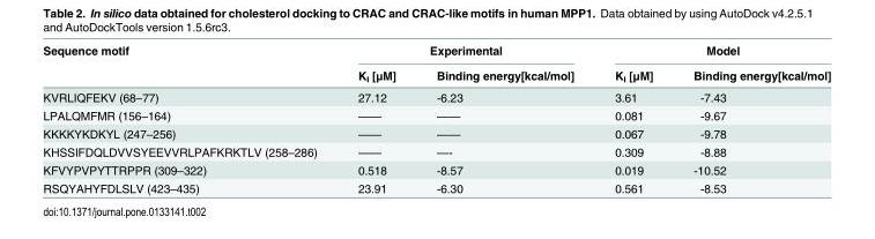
<table><thead><tr><td rowspan="2">Sequence motif</td><td colspan="2">Experimental</td><td colspan="2">Model</td></tr><tr><td>K<sub>I</sub> [μM]</td><td>Binding energy[kcal/mol]</td><td>K<sub>I</sub> [μM]</td><td>Binding energy[kcal/mol]</td></tr></thead><tbody><tr><td>KVRLIQFEKV (68–77)</td><td>27.12</td><td>-6.23</td><td>3.61</td><td>-7.43</td></tr><tr><td>LPALQMFMR (156–164)</td><td>——</td><td>——</td><td>0.081</td><td>-9.67</td></tr><tr><td>KKKKYKDKYL (247–256)</td><td>——</td><td>——</td><td>0.067</td><td>-9.78</td></tr><tr><td>KHSSIFDQLDVVSYEEVVRLPAFKRKTLV (258–286)</td><td>——</td><td>—-</td><td>0.309</td><td>-8.88</td></tr><tr><td>KFVYPVPYTTRPPR (309–322)</td><td>0.518</td><td>-8.57</td><td>0.019</td><td>-10.52</td></tr><tr><td>RSQYAHYFDLSLV (423–435)</td><td>23.91</td><td>-6.30</td><td>0.561</td><td>-8.53</td></tr></tbody></table>